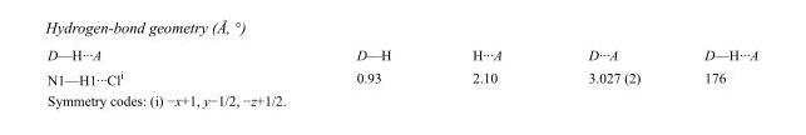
<table><tbody><tr><td>D—H···A</td><td>D—H</td><td>H···A</td><td>D···A</td><td>D—H···A</td></tr><tr><td>N1—H1···Cl<sup>i</sup></td><td>0.93</td><td>2.10</td><td>3.027 (2)</td><td>176</td></tr></tbody></table>